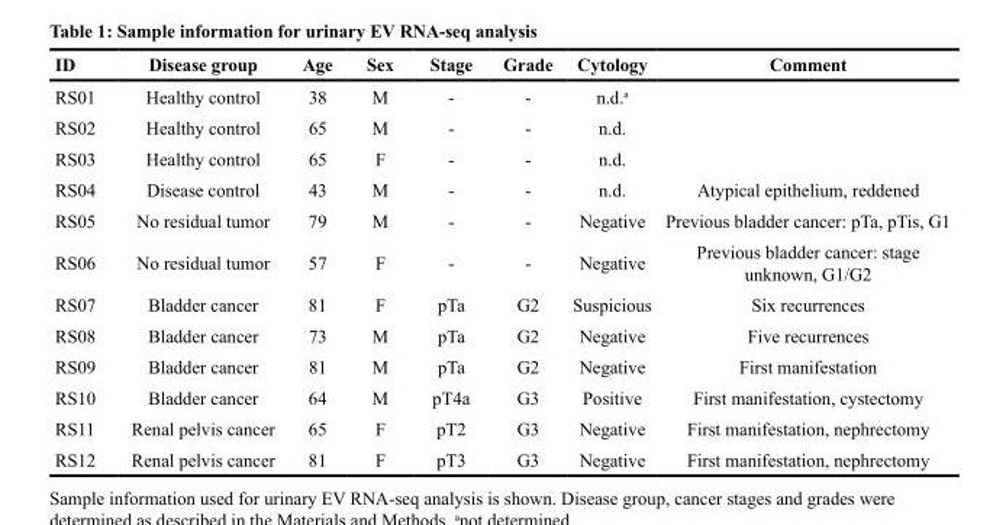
<table><thead><tr><td>ID</td><td>Disease group</td><td>Age</td><td>Sex</td><td>Stage</td><td>Grade</td><td>Cytology</td><td>Comment</td></tr></thead><tbody><tr><td>RS01</td><td>Healthy control</td><td>38</td><td>M</td><td>-</td><td>-</td><td>n.d.<sup>a</sup></td><td></td></tr><tr><td>RS02</td><td>Healthy control</td><td>65</td><td>M</td><td>-</td><td>-</td><td>n.d.</td><td></td></tr><tr><td>RS03</td><td>Healthy control</td><td>65</td><td>F</td><td>-</td><td>-</td><td>n.d.</td><td></td></tr><tr><td>RS04</td><td>Disease control</td><td>43</td><td>M</td><td>-</td><td>-</td><td>n.d.</td><td>Atypical epithelium, reddened</td></tr><tr><td>RS05</td><td>No residual tumor</td><td>79</td><td>M</td><td>-</td><td>-</td><td>Negative</td><td>Previous bladder cancer: pTa, pTis, G1</td></tr><tr><td>RS06</td><td>No residual tumor</td><td>57</td><td>F</td><td>-</td><td>-</td><td>Negative</td><td>Previous bladder cancer: stage unknown, G1/G2</td></tr><tr><td>RS07</td><td>Bladder cancer</td><td>81</td><td>F</td><td>pTa</td><td>G2</td><td>Suspicious</td><td>Six recurrences</td></tr><tr><td>RS08</td><td>Bladder cancer</td><td>73</td><td>M</td><td>pTa</td><td>G2</td><td>Negative</td><td>Five recurrences</td></tr><tr><td>RS09</td><td>Bladder cancer</td><td>81</td><td>M</td><td>pTa</td><td>G2</td><td>Negative</td><td>First manifestation</td></tr><tr><td>RS10</td><td>Bladder cancer</td><td>64</td><td>M</td><td>pT4a</td><td>G3</td><td>Positive</td><td>First manifestation, cystectomy</td></tr><tr><td>RS11</td><td>Renal pelvis cancer</td><td>65</td><td>F</td><td>pT2</td><td>G3</td><td>Negative</td><td>First manifestation, nephrectomy</td></tr><tr><td>RS12</td><td>Renal pelvis cancer</td><td>81</td><td>F</td><td>pT3</td><td>G3</td><td>Negative</td><td>First manifestation, nephrectomy</td></tr></tbody></table>